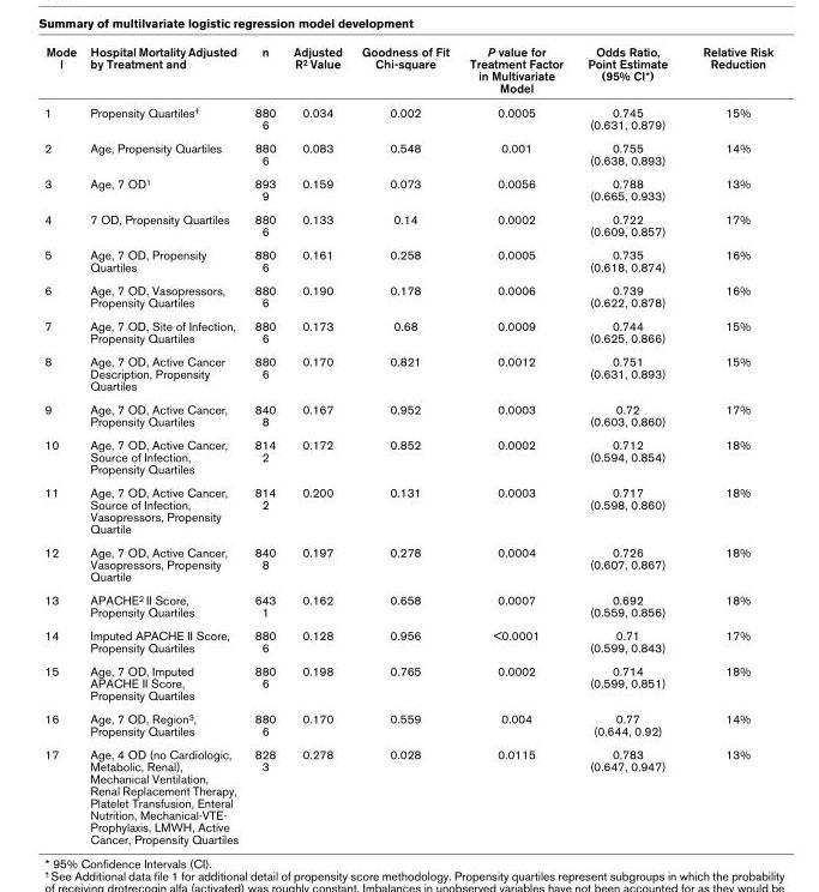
<table><thead><tr><td>Mode l</td><td>Hospital Mortality Adjusted by Treatment and</td><td>n</td><td>Adjusted R<sup>2</sup> Value</td><td>Goodness of Fit Chi-square</td><td>P value for Treatment Factor in Multivariate Model</td><td>Odds Ratio, Point Estimate (95% CI*)</td><td>Relative Risk Reduction</td></tr></thead><tbody><tr><td>1</td><td>Propensity Quartiles<sup>†</sup></td><td>880 6</td><td>0.034</td><td>0.002</td><td>0.0005</td><td>0.745 (0.631, 0.879)</td><td>15%</td></tr><tr><td>2</td><td>Age, Propensity Quartiles</td><td>880 6</td><td>0.083</td><td>0.548</td><td>0.001</td><td>0.755 (0.638, 0.893)</td><td>14%</td></tr><tr><td>3</td><td>Age, 7 OD<sup>1</sup></td><td>893 9</td><td>0.159</td><td>0.073</td><td>0.0056</td><td>0.788 (0.665, 0.933)</td><td>13%</td></tr><tr><td>4</td><td>7 OD, Propensity Quartiles</td><td>880 6</td><td>0.133</td><td>0.14</td><td>0.0002</td><td>0.722 (0.609, 0.857)</td><td>17%</td></tr><tr><td>5</td><td>Age, 7 OD, Propensity Quartiles</td><td>880 6</td><td>0.161</td><td>0.258</td><td>0.0005</td><td>0.735 (0.618, 0.874)</td><td>16%</td></tr><tr><td>6</td><td>Age, 7 OD, Vasopressors, Propensity Quartiles</td><td>880 6</td><td>0.190</td><td>0.178</td><td>0.0006</td><td>0.739 (0.622, 0.878)</td><td>16%</td></tr><tr><td>7</td><td>Age, 7 OD, Site of Infection, Propensity Quartiles</td><td>880 6</td><td>0.173</td><td>0.68</td><td>0.0009</td><td>0.744 (0.625, 0.866)</td><td>15%</td></tr><tr><td>8</td><td>Age, 7 OD, Active Cancer Description, Propensity Quartiles</td><td>880 6</td><td>0.170</td><td>0.821</td><td>0.0012</td><td>0.751 (0.631, 0.893)</td><td>15%</td></tr><tr><td>9</td><td>Age, 7 OD, Active Cancer, Propensity Quartiles</td><td>840 8</td><td>0.167</td><td>0.952</td><td>0.0003</td><td>0.72 (0.603, 0.860)</td><td>17%</td></tr><tr><td>10</td><td>Age, 7 OD, Active Cancer, Source of Infection, Propensity Quartiles</td><td>814 2</td><td>0.172</td><td>0.852</td><td>0.0002</td><td>0.712 (0.594, 0.854)</td><td>18%</td></tr><tr><td>11</td><td>Age, 7 OD, Active Cancer, Source of Infection, Vasopressors, Propensity Quartile</td><td>814 2</td><td>0.200</td><td>0.131</td><td>0.0003</td><td>0.717 (0.598, 0.860)</td><td>18%</td></tr><tr><td>12</td><td>Age, 7 OD, Active Cancer, Vasopressors, Propensity Quartile</td><td>840 8</td><td>0.197</td><td>0.278</td><td>0.0004</td><td>0.726 (0.607, 0.867)</td><td>18%</td></tr><tr><td>13</td><td>APACHE<sup>2</sup> II Score, Propensity Quartiles</td><td>643 1</td><td>0.162</td><td>0.658</td><td>0.0007</td><td>0.692 (0.559, 0.856)</td><td>18%</td></tr><tr><td>14</td><td>Imputed APACHE II Score, Propensity Quartiles</td><td>880 6</td><td>0.128</td><td>0.956</td><td>&lt;0.0001</td><td>0.71 (0.599, 0.843)</td><td>17%</td></tr><tr><td>15</td><td>Age, 7 OD, Imputed APACHE II Score, Propensity Quartiles</td><td>880 6</td><td>0.198</td><td>0.765</td><td>0.0002</td><td>0.714 (0.599, 0.851)</td><td>18%</td></tr><tr><td>16</td><td>Age, 7 OD, Region<sup>3</sup>, Propensity Quartiles</td><td>880 6</td><td>0.170</td><td>0.559</td><td>0.004</td><td>0.77 (0.644, 0.92)</td><td>14%</td></tr><tr><td>17</td><td>Age, 4 OD (no Cardiologic, Metabolic, Renal), Mechanical Ventilation, Renal Replacement Therapy, Platelet Transfusion, Enteral Nutrition, Mechanical-VTE- Prophylaxis, LMWH, Active Cancer, Propensity Quartiles</td><td>828 3</td><td>0.278</td><td>0.028</td><td>0.0115</td><td>0.783 (0.647, 0.947)</td><td>13%</td></tr></tbody></table>